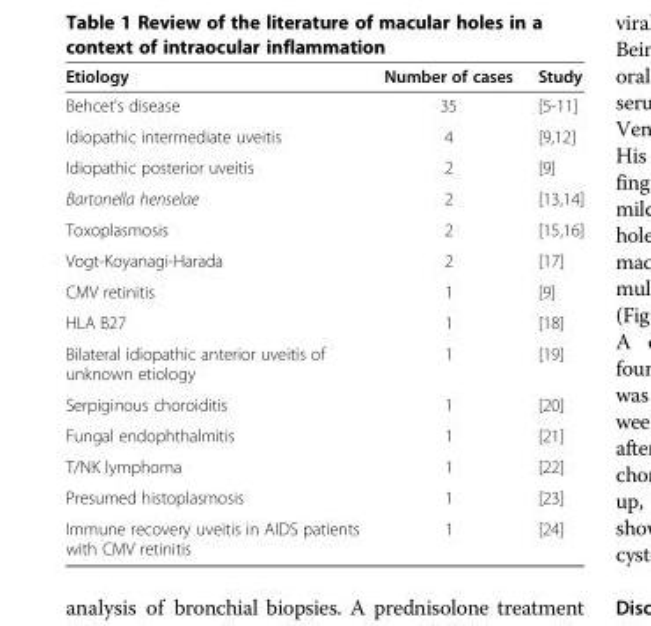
<table><thead><tr><td>Etiology</td><td>Number of cases</td><td>Study</td></tr></thead><tbody><tr><td>Behcet&#x27;s disease</td><td>35</td><td>[5-11]</td></tr><tr><td>Idiopathic intermediate uveitis</td><td>4</td><td>[9,12]</td></tr><tr><td>Idiopathic posterior uveitis</td><td>2</td><td>[9]</td></tr><tr><td>Bartonella henselae</td><td>2</td><td>[13,14]</td></tr><tr><td>Toxoplasmosis</td><td>2</td><td>[15,16]</td></tr><tr><td>Vogt-Koyanagi-Harada</td><td>2</td><td>[17]</td></tr><tr><td>CMV retinitis</td><td>1</td><td>[9]</td></tr><tr><td>HLA B27</td><td>1</td><td>[18]</td></tr><tr><td>Bilateral idiopathic anterior uveitis of unknown etiology</td><td>1</td><td>[19]</td></tr><tr><td>Serpiginous choroiditis</td><td>1</td><td>[20]</td></tr><tr><td>Fungal endophthalmitis</td><td>1</td><td>[21]</td></tr><tr><td>T/NK lymphoma</td><td>1</td><td>[22]</td></tr><tr><td>Presumed histoplasmosis</td><td>1</td><td>[23]</td></tr><tr><td>Immune recovery uveitis in AIDS patients with CMV retinitis</td><td>1</td><td>[24]</td></tr></tbody></table>